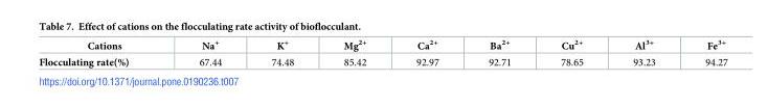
<table><thead><tr><td>Cations</td><td>Na<sup>+</sup></td><td>K<sup>+</sup></td><td>Mg<sup>2+</sup></td><td>Ca<sup>2+</sup></td><td>Ba<sup>2+</sup></td><td>Cu<sup>2+</sup></td><td>Al<sup>3+</sup></td><td>Fe<sup>3+</sup></td></tr></thead><tbody><tr><td>Flocculating rate(%)</td><td>67.44</td><td>74.48</td><td>85.42</td><td>92.97</td><td>92.71</td><td>78.65</td><td>93.23</td><td>94.27</td></tr></tbody></table>